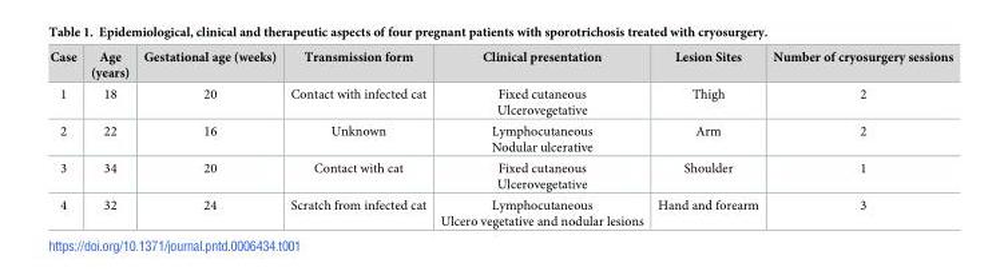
<table><thead><tr><td>Case</td><td>Age (years)</td><td>Gestational age (weeks)</td><td>Transmission form</td><td>Clinical presentation</td><td>Lesion Sites</td><td>Number of cryosurgery sessions</td></tr></thead><tbody><tr><td>1</td><td>18</td><td>20</td><td>Contact with infected cat</td><td>Fixed cutaneous Ulcerovegetative</td><td>Thigh</td><td>2</td></tr><tr><td>2</td><td>22</td><td>16</td><td>Unknown</td><td>Lymphocutaneous Nodular ulcerative</td><td>Arm</td><td>2</td></tr><tr><td>3</td><td>34</td><td>20</td><td>Contact with cat</td><td>Fixed cutaneous Ulcerovegetative</td><td>Shoulder</td><td>1</td></tr><tr><td>4</td><td>32</td><td>24</td><td>Scratch from infected cat</td><td>Lymphocutaneous Ulcero vegetative and nodular lesions</td><td>Hand and forearm</td><td>3</td></tr></tbody></table>